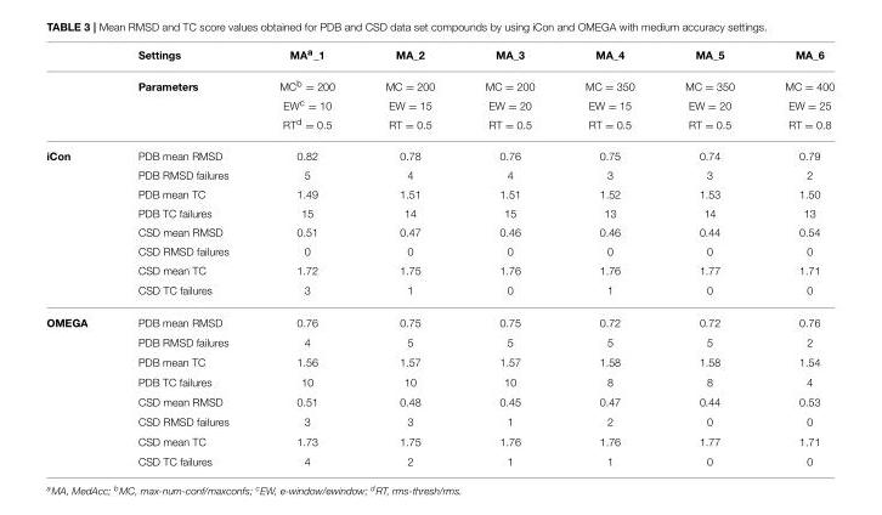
<table><thead><tr><td></td><td>Settings</td><td>MA<sup>a</sup>_1</td><td>MA_2</td><td>MA_3</td><td>MA_4</td><td>MA_5</td><td>MA_6</td></tr></thead><tbody><tr><td></td><td>Parameters</td><td>MC<sup>b</sup> = 200</td><td>MC = 200</td><td>MC = 200</td><td>MC = 350</td><td>MC = 350</td><td>MC = 400</td></tr><tr><td></td><td></td><td>EW<sup>c</sup> = 10</td><td>EW = 15</td><td>EW = 20</td><td>EW = 15</td><td>EW = 20</td><td>EW = 25</td></tr><tr><td></td><td></td><td>RT<sup>d</sup> = 0.5</td><td>RT = 0.5</td><td>RT = 0.5</td><td>RT = 0.5</td><td>RT = 0.5</td><td>RT = 0.8</td></tr><tr><td rowspan="8">iCon</td><td>PDB mean RMSD</td><td>0.82</td><td>0.78</td><td>0.76</td><td>0.75</td><td>0.74</td><td>0.79</td></tr><tr><td>PDB RMSD failures</td><td>5</td><td>4</td><td>4</td><td>3</td><td>3</td><td>2</td></tr><tr><td>PDB mean TC</td><td>1.49</td><td>1.51</td><td>1.51</td><td>1.52</td><td>1.53</td><td>1.50</td></tr><tr><td>PDB TC failures</td><td>15</td><td>14</td><td>15</td><td>13</td><td>14</td><td>13</td></tr><tr><td>CSD mean RMSD</td><td>0.51</td><td>0.47</td><td>0.46</td><td>0.46</td><td>0.44</td><td>0.54</td></tr><tr><td>CSD RMSD failures</td><td>0</td><td>0</td><td>0</td><td>0</td><td>0</td><td>0</td></tr><tr><td>CSD mean TC</td><td>1.72</td><td>1.75</td><td>1.76</td><td>1.76</td><td>1.77</td><td>1.71</td></tr><tr><td>CSD TC failures</td><td>3</td><td>1</td><td>0</td><td>1</td><td>0</td><td>0</td></tr><tr><td rowspan="8">OMEGA</td><td>PDB mean RMSD</td><td>0.76</td><td>0.75</td><td>0.75</td><td>0.72</td><td>0.72</td><td>0.76</td></tr><tr><td>PDB RMSD failures</td><td>4</td><td>5</td><td>5</td><td>5</td><td>5</td><td>2</td></tr><tr><td>PDB mean TC</td><td>1.56</td><td>1.57</td><td>1.57</td><td>1.58</td><td>1.58</td><td>1.54</td></tr><tr><td>PDB TC failures</td><td>10</td><td>10</td><td>10</td><td>8</td><td>8</td><td>4</td></tr><tr><td>CSD mean RMSD</td><td>0.51</td><td>0.48</td><td>0.45</td><td>0.47</td><td>0.44</td><td>0.53</td></tr><tr><td>CSD RMSD failures</td><td>3</td><td>3</td><td>1</td><td>2</td><td>0</td><td>0</td></tr><tr><td>CSD mean TC</td><td>1.73</td><td>1.75</td><td>1.76</td><td>1.76</td><td>1.77</td><td>1.71</td></tr><tr><td>CSD TC failures</td><td>4</td><td>2</td><td>1</td><td>1</td><td>0</td><td>0</td></tr></tbody></table>